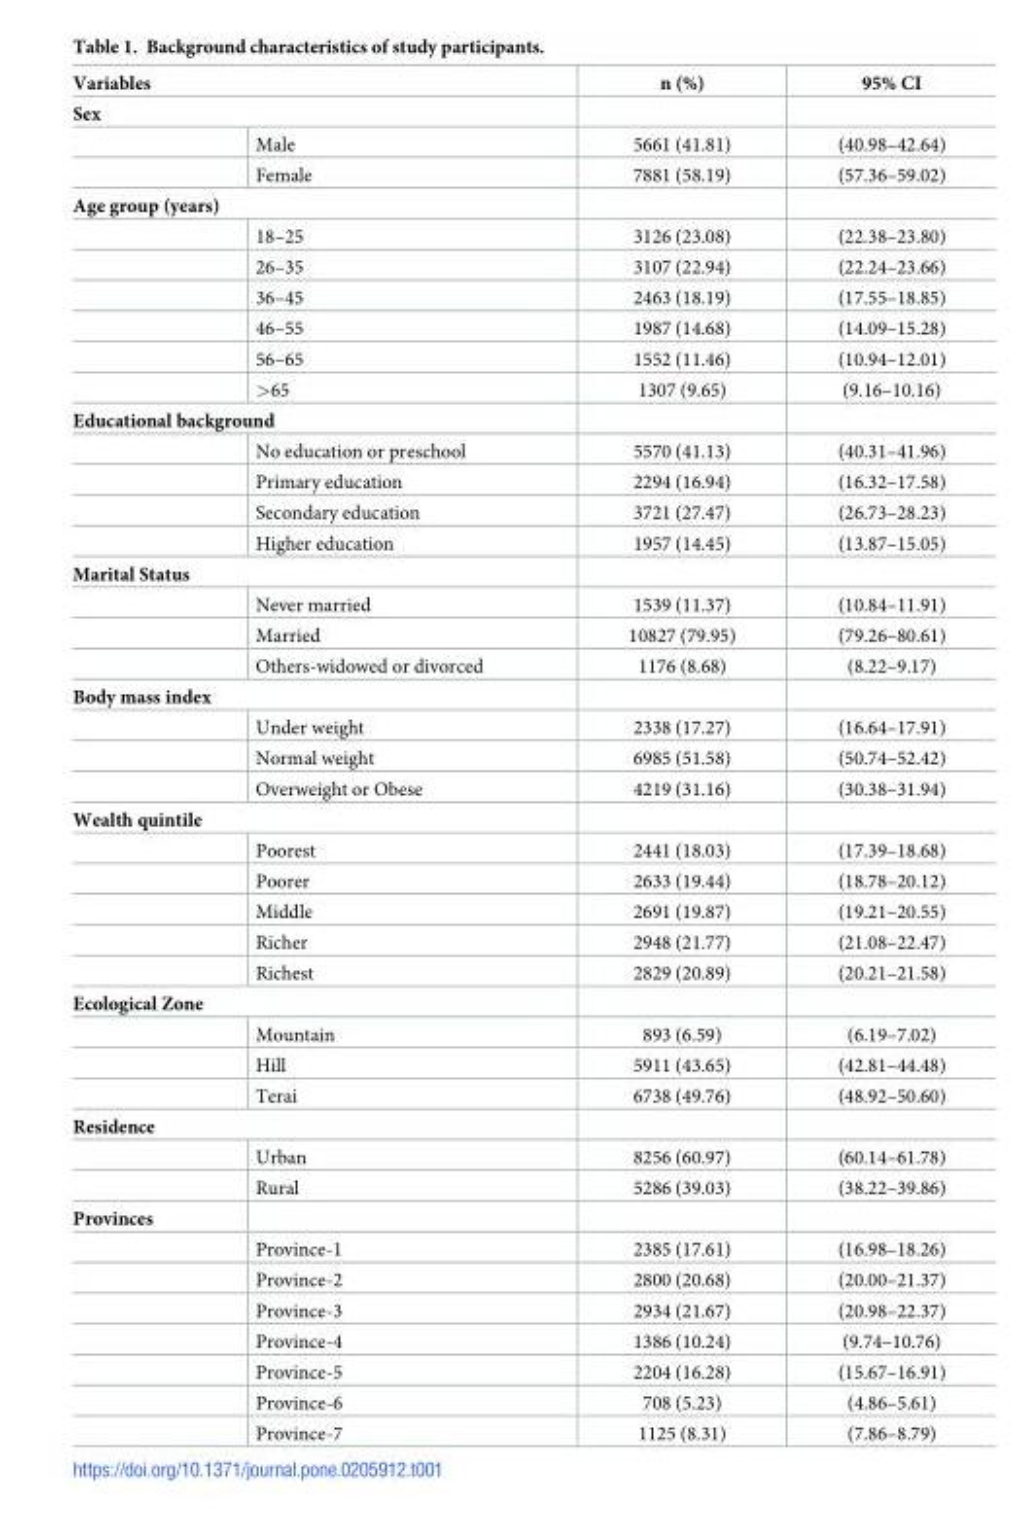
<table><thead><tr><td rowspan="2" colspan="2">Variables Sex</td><td rowspan="3">n (%) 5661 (41.81)</td><td rowspan="3">95% CI (40.98–42.64)</td></tr><tr></tr><tr><td></td><td>Male</td></tr></thead><tbody><tr><td></td><td>Female</td><td>7881 (58.19)</td><td>(57.36–59.02)</td></tr><tr><td colspan="4">Age group (years)</td></tr><tr><td></td><td>18–25</td><td>3126 (23.08)</td><td>(22.38–23.80)</td></tr><tr><td></td><td>26–35</td><td>3107 (22.94)</td><td>(22.24–23.66)</td></tr><tr><td></td><td>36–45</td><td>2463 (18.19)</td><td>(17.55–18.85)</td></tr><tr><td></td><td>46–55</td><td>1987 (14.68)</td><td>(14.09–15.28)</td></tr><tr><td></td><td>56–65</td><td>1552 (11.46)</td><td>(10.94–12.01)</td></tr><tr><td></td><td>&gt;65</td><td>1307 (9.65)</td><td>(9.16–10.16)</td></tr><tr><td colspan="4">Educational background</td></tr><tr><td></td><td>No education or preschool</td><td>5570 (41.13)</td><td>(40.31–41.96)</td></tr><tr><td></td><td>Primary education</td><td>2294 (16.94)</td><td>(16.32–17.58)</td></tr><tr><td></td><td>Secondary education</td><td>3721 (27.47)</td><td>(26.73–28.23)</td></tr><tr><td></td><td>Higher education</td><td>1957 (14.45)</td><td>(13.87–15.05)</td></tr><tr><td colspan="4">Marital Status</td></tr><tr><td></td><td>Never married</td><td>1539 (11.37)</td><td>(10.84–11.91)</td></tr><tr><td></td><td>Married</td><td>10827 (79.95)</td><td>(79.26–80.61)</td></tr><tr><td></td><td>Others-widowed or divorced</td><td>1176 (8.68)</td><td>(8.22–9.17)</td></tr><tr><td colspan="4">Body mass index</td></tr><tr><td></td><td>Under weight</td><td>2338 (17.27)</td><td>(16.64–17.91)</td></tr><tr><td></td><td>Normal weight</td><td>6985 (51.58)</td><td>(50.74–52.42)</td></tr><tr><td></td><td>Overweight or Obese</td><td>4219 (31.16)</td><td>(30.38–31.94)</td></tr><tr><td colspan="4">Wealth quintile</td></tr><tr><td></td><td>Poorest</td><td>2441 (18.03)</td><td>(17.39–18.68)</td></tr><tr><td></td><td>Poorer</td><td>2633 (19.44)</td><td>(18.78–20.12)</td></tr><tr><td></td><td>Middle</td><td>2691 (19.87)</td><td>(19.21–20.55)</td></tr><tr><td></td><td>Richer</td><td>2948 (21.77)</td><td>(21.08–22.47)</td></tr><tr><td></td><td>Richest</td><td>2829 (20.89)</td><td>(20.21–21.58)</td></tr><tr><td colspan="4">Ecological Zone</td></tr><tr><td></td><td>Mountain</td><td>893 (6.59)</td><td>(6.19–7.02)</td></tr><tr><td></td><td>Hill</td><td>5911 (43.65)</td><td>(42.81–44.48)</td></tr><tr><td></td><td>Terai</td><td>6738 (49.76)</td><td>(48.92–50.60)</td></tr><tr><td colspan="4">Residence</td></tr><tr><td></td><td>Urban</td><td>8256 (60.97)</td><td>(60.14–61.78)</td></tr><tr><td></td><td>Rural</td><td>5286 (39.03)</td><td>(38.22–39.86)</td></tr><tr><td colspan="4">Provinces</td></tr><tr><td></td><td>Province-1</td><td>2385 (17.61)</td><td>(16.98–18.26)</td></tr><tr><td></td><td>Province-2</td><td>2800 (20.68)</td><td>(20.00–21.37)</td></tr><tr><td></td><td>Province-3</td><td>2934 (21.67)</td><td>(20.98–22.37)</td></tr><tr><td></td><td>Province-4</td><td>1386 (10.24)</td><td>(9.74–10.76)</td></tr><tr><td></td><td>Province-5</td><td>2204 (16.28)</td><td>(15.67–16.91)</td></tr><tr><td></td><td>Province-6</td><td>708 (5.23)</td><td>(4.86–5.61)</td></tr><tr><td></td><td>Province-7</td><td>1125 (8.31)</td><td>(7.86–8.79)</td></tr></tbody></table>